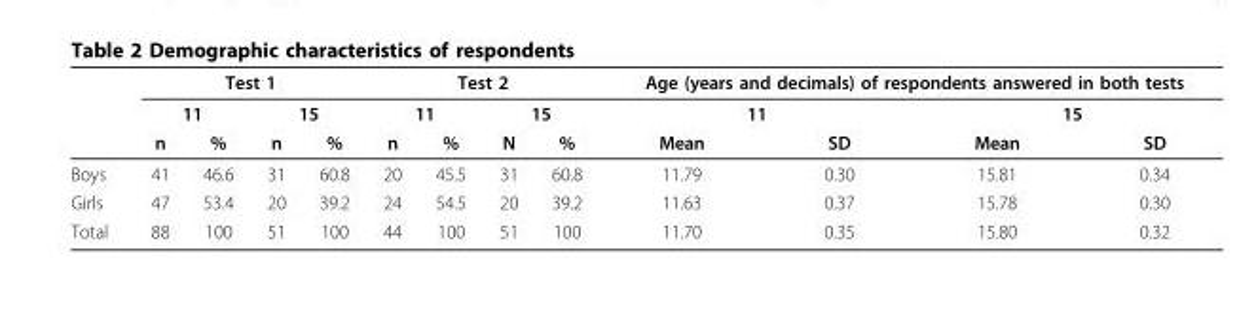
<table><thead><tr><td rowspan="3"></td><td colspan="4">Test 1</td><td colspan="4">Test 2</td><td colspan="4">Age (years and decimals) of respondents answered in both tests</td></tr><tr><td colspan="2">11</td><td colspan="2">15</td><td colspan="2">11</td><td colspan="2">15</td><td colspan="2">11</td><td colspan="2">15</td></tr><tr><td>n</td><td>%</td><td>n</td><td>%</td><td>n</td><td>%</td><td>N</td><td>%</td><td>Mean</td><td>SD</td><td>Mean</td><td>SD</td></tr></thead><tbody><tr><td>Boys</td><td>41</td><td>46.6</td><td>31</td><td>60.8</td><td>20</td><td>45.5</td><td>31</td><td>60.8</td><td>11.79</td><td>0.30</td><td>15.81</td><td>0.34</td></tr><tr><td>Girls</td><td>47</td><td>53.4</td><td>20</td><td>39.2</td><td>24</td><td>54.5</td><td>20</td><td>39.2</td><td>11.63</td><td>0.37</td><td>15.78</td><td>0.30</td></tr><tr><td>Total</td><td>88</td><td>100</td><td>51</td><td>100</td><td>44</td><td>100</td><td>51</td><td>100</td><td>11.70</td><td>0.35</td><td>15.80</td><td>0.32</td></tr></tbody></table>